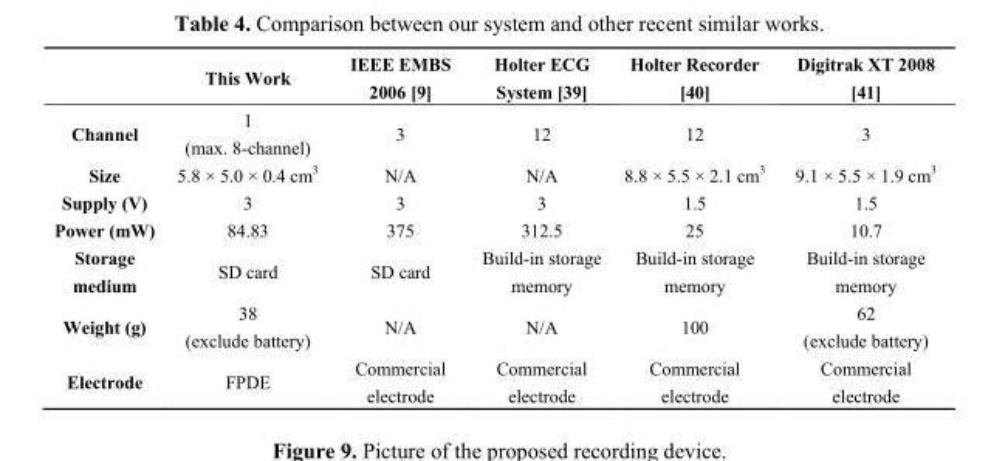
<table><thead><tr><td></td><td>This Work</td><td>IEEE EMBS 2006 [9]</td><td>Holter ECG System [39]</td><td>Holter Recorder [40]</td><td>Digitrak XT 2008 [41]</td></tr></thead><tbody><tr><td>Channel</td><td>1 (max. 8-channel)</td><td>3</td><td>12</td><td>12</td><td>3</td></tr><tr><td>Size</td><td>5.8 × 5.0 × 0.4 cm<sup>3</sup></td><td>N/A</td><td>N/A</td><td>8.8 × 5.5 × 2.1 cm<sup>3</sup></td><td>9.1 × 5.5 × 1.9 cm<sup>3</sup></td></tr><tr><td>Supply (V)</td><td>3</td><td>3</td><td>3</td><td>1.5</td><td>1.5</td></tr><tr><td>Power (mW)</td><td>84.83</td><td>375</td><td>312.5</td><td>25</td><td>10.7</td></tr><tr><td>Storage medium</td><td>SD card</td><td>SD card</td><td>Build-in storage memory</td><td>Build-in storage memory</td><td>Build-in storage memory</td></tr><tr><td>Weight (g)</td><td>38 (exclude battery)</td><td>N/A</td><td>N/A</td><td>100</td><td>62 (exclude battery)</td></tr><tr><td>Electrode</td><td>FPDE</td><td>Commercial electrode</td><td>Commercial electrode</td><td>Commercial electrode</td><td>Commercial electrode</td></tr></tbody></table>